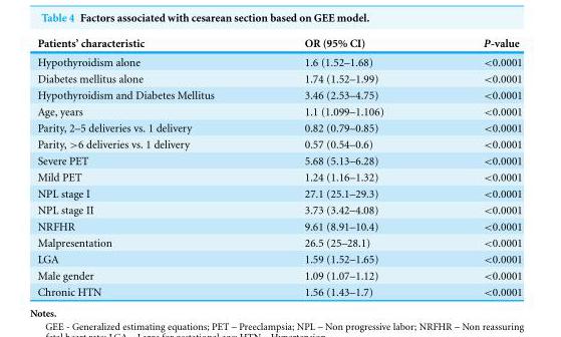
<table><thead><tr><td>Patients’ characteristic</td><td>OR (95% CI)</td><td>P-value</td></tr></thead><tbody><tr><td>Hypothyroidism alone</td><td>1.6 (1.52–1.68)</td><td>&lt;0.0001</td></tr><tr><td>Diabetes mellitus alone</td><td>1.74 (1.52–1.99)</td><td>&lt;0.0001</td></tr><tr><td>Hypothyroidism and Diabetes Mellitus</td><td>3.46 (2.53–4.75)</td><td>&lt;0.0001</td></tr><tr><td>Age, years</td><td>1.1 (1.099–1.106)</td><td>&lt;0.0001</td></tr><tr><td>Parity, 2–5 deliveries vs. 1 delivery</td><td>0.82 (0.79–0.85)</td><td>&lt;0.0001</td></tr><tr><td>Parity, &gt;6 deliveries vs. 1 delivery</td><td>0.57 (0.54–0.6)</td><td>&lt;0.0001</td></tr><tr><td>Severe PET</td><td>5.68 (5.13–6.28)</td><td>&lt;0.0001</td></tr><tr><td>Mild PET</td><td>1.24 (1.16–1.32)</td><td>&lt;0.0001</td></tr><tr><td>NPL stage I</td><td>27.1 (25.1–29.3)</td><td>&lt;0.0001</td></tr><tr><td>NPL stage II</td><td>3.73 (3.42–4.08)</td><td>&lt;0.0001</td></tr><tr><td>NRFHR</td><td>9.61 (8.91–10.4)</td><td>&lt;0.0001</td></tr><tr><td>Malpresentation</td><td>26.5 (25–28.1)</td><td>&lt;0.0001</td></tr><tr><td>LGA</td><td>1.59 (1.52–1.65)</td><td>&lt;0.0001</td></tr><tr><td>Male gender</td><td>1.09 (1.07–1.12)</td><td>&lt;0.0001</td></tr><tr><td>Chronic HTN</td><td>1.56 (1.43–1.7)</td><td>&lt;0.0001</td></tr></tbody></table>